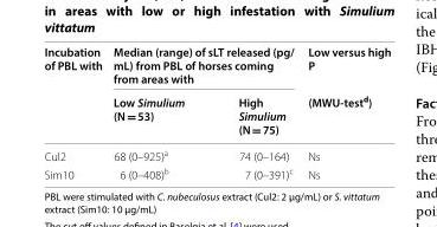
<table><thead><tr><td rowspan="2">Incubation of PBL with</td><td colspan="2">Median (range) of sLT released (pg/ mL) from PBL of horses coming from areas with</td><td rowspan="2">Low versus high P (MWU‑test<sup>d</sup>)</td></tr><tr><td>Low Simulium (N = 53)</td><td>High Simulium (N = 75)</td></tr></thead><tbody><tr><td>Cul2</td><td>68 (0–925)<sup>a</sup></td><td>74 (0–164)</td><td>Ns</td></tr><tr><td>Sim10</td><td>6 (0–408)<sup>b</sup></td><td>7 (0–391)<sup>c</sup></td><td>Ns</td></tr></tbody></table>